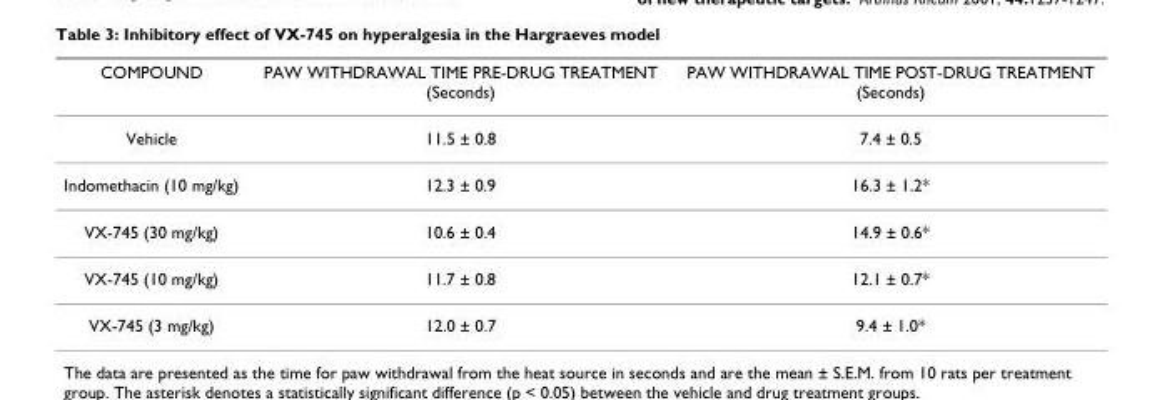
<table><thead><tr><td>COMPOUND</td><td>PAW WITHDRAWAL TIME PRE-DRUG TREATMENT (Seconds)</td><td>PAW WITHDRAWAL TIME POST-DRUG TREATMENT (Seconds)</td></tr></thead><tbody><tr><td>Vehicle</td><td>11.5 ± 0.8</td><td>7.4 ± 0.5</td></tr><tr><td>Indomethacin (10 mg/kg)</td><td>12.3 ± 0.9</td><td>16.3 ± 1.2*</td></tr><tr><td>VX-745 (30 mg/kg)</td><td>10.6 ± 0.4</td><td>14.9 ± 0.6*</td></tr><tr><td>VX-745 (10 mg/kg)</td><td>11.7 ± 0.8</td><td>12.1 ± 0.7*</td></tr><tr><td>VX-745 (3 mg/kg)</td><td>12.0 ± 0.7</td><td>9.4 ± 1.0*</td></tr></tbody></table>